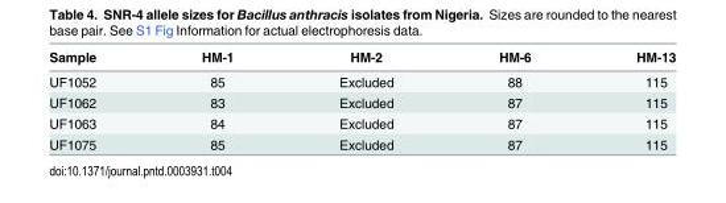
<table><thead><tr><td>Sample</td><td>HM-1</td><td>HM-2</td><td>HM-6</td><td>HM-13</td></tr></thead><tbody><tr><td>UF1052</td><td>85</td><td>Excluded</td><td>88</td><td>115</td></tr><tr><td>UF1062</td><td>83</td><td>Excluded</td><td>87</td><td>115</td></tr><tr><td>UF1063</td><td>84</td><td>Excluded</td><td>87</td><td>115</td></tr><tr><td>UF1075</td><td>85</td><td>Excluded</td><td>87</td><td>115</td></tr></tbody></table>